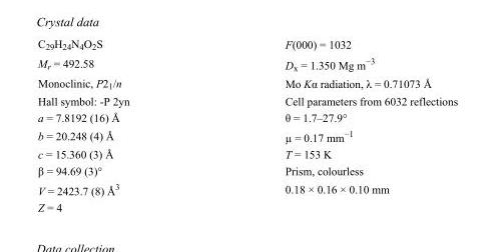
<table><tbody><tr><td>C<sub>29</sub>H<sub>24</sub>N<sub>4</sub>O<sub>2</sub>S</td><td>F(000) = 1032</td></tr><tr><td>M<sub>r</sub> = 492.58</td><td>D<sub>x</sub> = 1.350 Mg m<sup>−3</sup></td></tr><tr><td>Monoclinic, P2<sub>1</sub>/n</td><td>Mo Kα radiation, λ = 0.71073 Å</td></tr><tr><td>Hall symbol: -P 2yn</td><td>Cell parameters from 6032 reflections</td></tr><tr><td>a = 7.8192 (16) Å</td><td>θ = 1.7–27.9°</td></tr><tr><td>b = 20.248 (4) Å</td><td>µ = 0.17 mm<sup>−1</sup></td></tr><tr><td>c = 15.360 (3) Å</td><td>T = 153 K</td></tr><tr><td>β = 94.69 (3)°</td><td>Prism, colourless</td></tr><tr><td>V = 2423.7 (8) Å<sup>3</sup></td><td>0.18 × 0.16 × 0.10 mm</td></tr><tr><td>Z = 4</td><td></td></tr></tbody></table>